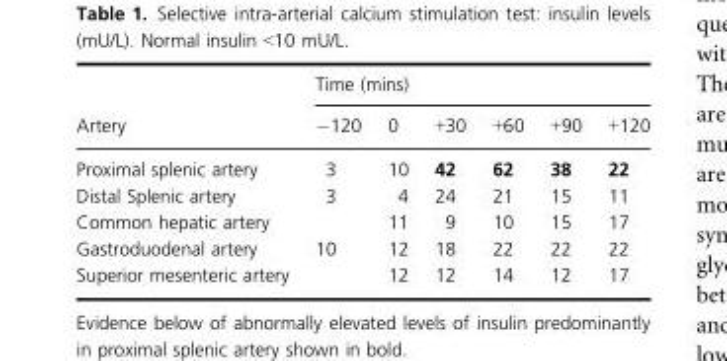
<table><thead><tr><td rowspan="2">Artery</td><td colspan="6">Time (mins)</td></tr><tr><td>−120</td><td>0</td><td>+30</td><td>+60</td><td>+90</td><td>+120</td></tr></thead><tbody><tr><td>Proximal splenic artery</td><td>3</td><td>10</td><td>42</td><td>62</td><td>38</td><td>22</td></tr><tr><td>Distal Splenic artery</td><td>3</td><td>4</td><td>24</td><td>21</td><td>15</td><td>11</td></tr><tr><td>Common hepatic artery</td><td></td><td>11</td><td>9</td><td>10</td><td>15</td><td>17</td></tr><tr><td>Gastroduodenal artery</td><td>10</td><td>12</td><td>18</td><td>22</td><td>22</td><td>22</td></tr><tr><td>Superior mesenteric artery</td><td></td><td>12</td><td>12</td><td>14</td><td>12</td><td>17</td></tr></tbody></table>